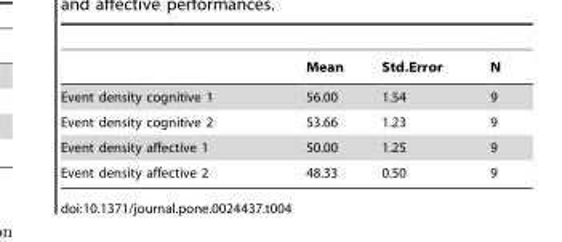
<table><thead><tr><td></td><td>Mean</td><td>Std.Error</td><td>N</td></tr></thead><tbody><tr><td>Event density cognitive 1</td><td>56.00</td><td>1.54</td><td>9</td></tr><tr><td>Event density cognitive 2</td><td>53.66</td><td>1.23</td><td>9</td></tr><tr><td>Event density affective 1</td><td>50.00</td><td>1.25</td><td>9</td></tr><tr><td>Event density affective 2</td><td>48.33</td><td>0.50</td><td>9</td></tr></tbody></table>